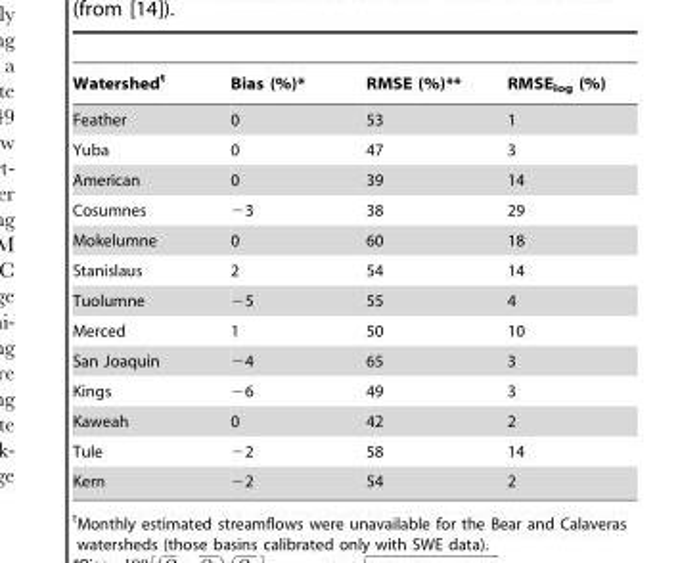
<table><thead><tr><td>Watershed<sup>t</sup></td><td>Bias (%)*</td><td>RMSE (%)**</td><td>RMSE<sub>log</sub> (%)</td></tr></thead><tbody><tr><td>Feather</td><td>0</td><td>53</td><td>1</td></tr><tr><td>Yuba</td><td>0</td><td>47</td><td>3</td></tr><tr><td>American</td><td>0</td><td>39</td><td>14</td></tr><tr><td>Cosumnes</td><td>−3</td><td>38</td><td>29</td></tr><tr><td>Mokelumne</td><td>0</td><td>60</td><td>18</td></tr><tr><td>Stanislaus</td><td>2</td><td>54</td><td>14</td></tr><tr><td>Tuolumne</td><td>−5</td><td>55</td><td>4</td></tr><tr><td>Merced</td><td>1</td><td>50</td><td>10</td></tr><tr><td>San Joaquin</td><td>−4</td><td>65</td><td>3</td></tr><tr><td>Kings</td><td>−6</td><td>49</td><td>3</td></tr><tr><td>Kaweah</td><td>0</td><td>42</td><td>2</td></tr><tr><td>Tule</td><td>−2</td><td>58</td><td>14</td></tr><tr><td>Kern</td><td>−2</td><td>54</td><td>2</td></tr></tbody></table>